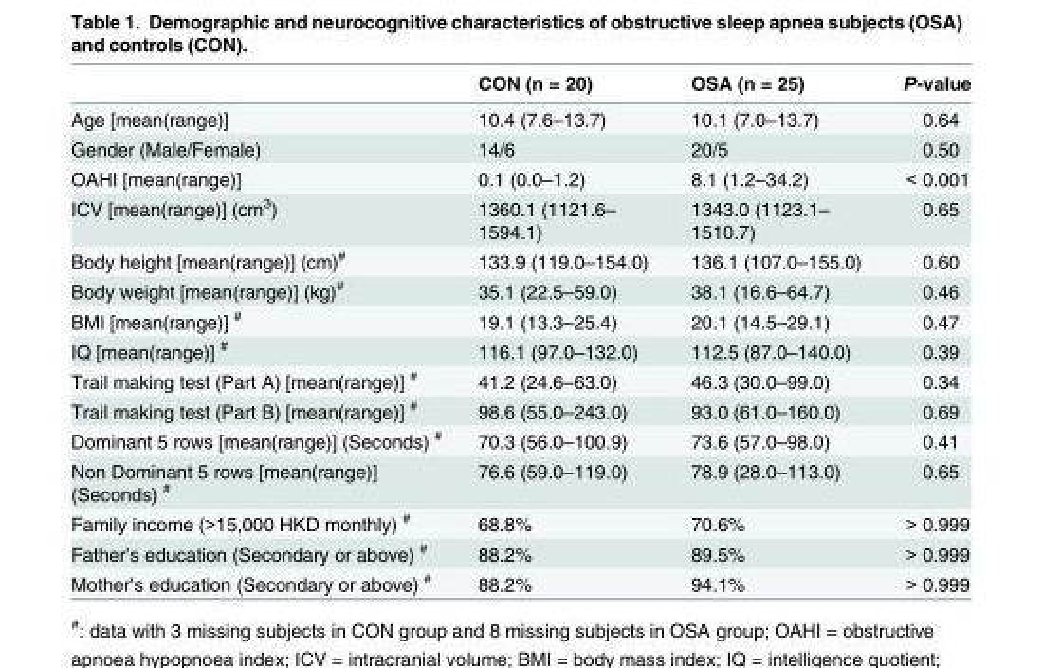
<table><thead><tr><td></td><td>CON (n = 20)</td><td>OSA (n = 25)</td><td>P-value</td></tr></thead><tbody><tr><td>Age [mean(range)]</td><td>10.4 (7.6–13.7)</td><td>10.1 (7.0–13.7)</td><td>0.64</td></tr><tr><td>Gender (Male/Female)</td><td>14/6</td><td>20/5</td><td>0.50</td></tr><tr><td>OAHI [mean(range)]</td><td>0.1 (0.0–1.2)</td><td>8.1 (1.2–34.2)</td><td>&lt; 0.001</td></tr><tr><td>ICV [mean(range)] (cm<sup>3</sup>)</td><td>1360.1 (1121.6– 1594.1)</td><td>1343.0 (1123.1– 1510.7)</td><td>0.65</td></tr><tr><td>Body height [mean(range)] (cm)<sup>#</sup></td><td>133.9 (119.0–154.0)</td><td>136.1 (107.0–155.0)</td><td>0.60</td></tr><tr><td>Body weight [mean(range)] (kg)<sup>#</sup></td><td>35.1 (22.5–59.0)</td><td>38.1 (16.6–64.7)</td><td>0.46</td></tr><tr><td>BMI [mean(range)] <sup>#</sup></td><td>19.1 (13.3–25.4)</td><td>20.1 (14.5–29.1)</td><td>0.47</td></tr><tr><td>IQ [mean(range)] <sup>#</sup></td><td>116.1 (97.0–132.0)</td><td>112.5 (87.0–140.0)</td><td>0.39</td></tr><tr><td>Trail making test (Part A) [mean(range)] <sup>#</sup></td><td>41.2 (24.6–63.0)</td><td>46.3 (30.0–99.0)</td><td>0.34</td></tr><tr><td>Trail making test (Part B) [mean(range)] <sup>#</sup></td><td>98.6 (55.0–243.0)</td><td>93.0 (61.0–160.0)</td><td>0.69</td></tr><tr><td>Dominant 5 rows [mean(range)] (Seconds) <sup>#</sup></td><td>70.3 (56.0–100.9)</td><td>73.6 (57.0–98.0)</td><td>0.41</td></tr><tr><td>Non Dominant 5 rows [mean(range)] (Seconds) <sup>#</sup></td><td>76.6 (59.0–119.0)</td><td>78.9 (28.0–113.0)</td><td>0.65</td></tr><tr><td>Family income (&gt;15,000 HKD monthly) <sup>#</sup></td><td>68.8%</td><td>70.6%</td><td>&gt; 0.999</td></tr><tr><td>Father’s education (Secondary or above) <sup>#</sup></td><td>88.2%</td><td>89.5%</td><td>&gt; 0.999</td></tr><tr><td>Mother’s education (Secondary or above) <sup>#</sup></td><td>88.2%</td><td>94.1%</td><td>&gt; 0.999</td></tr></tbody></table>